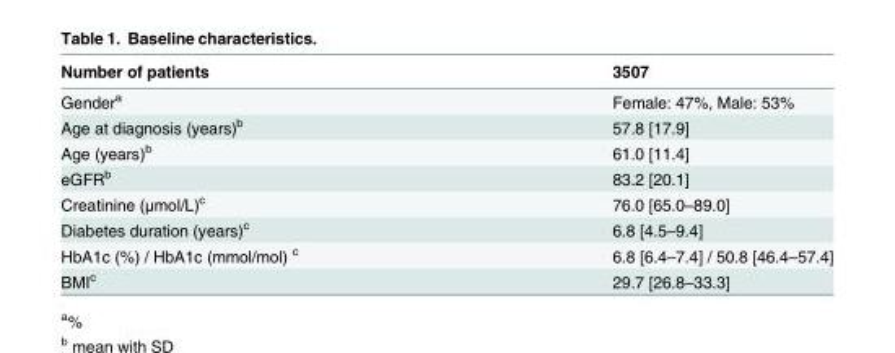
<table><thead><tr><td>Number of patients</td><td>3507</td></tr></thead><tbody><tr><td>Gender<sup>a</sup></td><td>Female: 47%, Male: 53%</td></tr><tr><td>Age at diagnosis (years)<sup>b</sup></td><td>57.8 [17.9]</td></tr><tr><td>Age (years)<sup>b</sup></td><td>61.0 [11.4]</td></tr><tr><td>eGFR<sup>b</sup></td><td>83.2 [20.1]</td></tr><tr><td>Creatinine (μmol/L)<sup>c</sup></td><td>76.0 [65.0–89.0]</td></tr><tr><td>Diabetes duration (years)<sup>c</sup></td><td>6.8 [4.5–9.4]</td></tr><tr><td>HbA1c (%) / HbA1c (mmol/mol) <sup>c</sup></td><td>6.8 [6.4–7.4] / 50.8 [46.4–57.4]</td></tr><tr><td>BMI<sup>c</sup></td><td>29.7 [26.8–33.3]</td></tr></tbody></table>